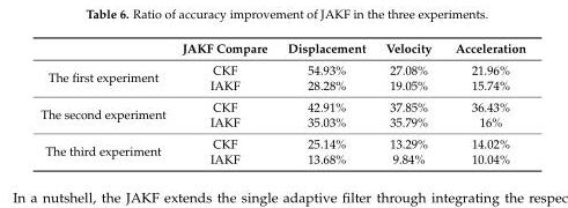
<table><thead><tr><td></td><td>JAKF Compare</td><td>Displacement</td><td>Velocity</td><td>Acceleration</td></tr></thead><tbody><tr><td rowspan="2">The first experiment</td><td>CKF</td><td>54.93%</td><td>27.08%</td><td>21.96%</td></tr><tr><td>IAKF</td><td>28.28%</td><td>19.05%</td><td>15.74%</td></tr><tr><td rowspan="2">The second experiment</td><td>CKF</td><td>42.91%</td><td>37.85%</td><td>36.43%</td></tr><tr><td>IAKF</td><td>35.03%</td><td>35.79%</td><td>16%</td></tr><tr><td rowspan="2">The third experiment</td><td>CKF</td><td>25.14%</td><td>13.29%</td><td>14.02%</td></tr><tr><td>IAKF</td><td>13.68%</td><td>9.84%</td><td>10.04%</td></tr></tbody></table>